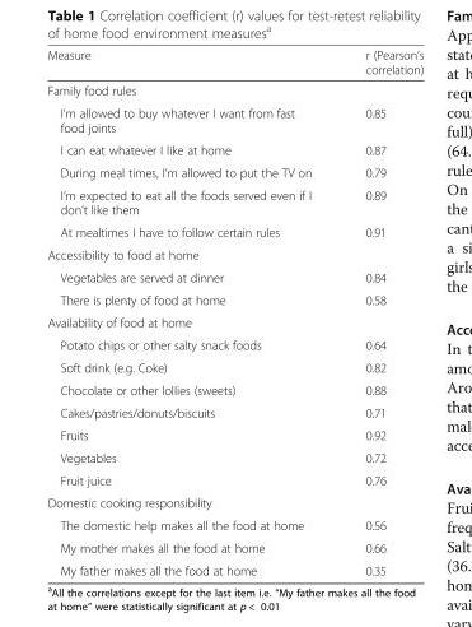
<table><thead><tr><td>Measure</td><td>r (Pearson’s correlation)</td></tr></thead><tbody><tr><td colspan="2">Family food rules</td></tr><tr><td>I’m allowed to buy whatever I want from fast food joints</td><td>0.85</td></tr><tr><td>I can eat whatever I like at home</td><td>0.87</td></tr><tr><td>During meal times, I’m allowed to put the TV on</td><td>0.79</td></tr><tr><td>I’m expected to eat all the foods served even if I don’t like them</td><td>0.89</td></tr><tr><td>At mealtimes I have to follow certain rules</td><td>0.91</td></tr><tr><td colspan="2">Accessibility to food at home</td></tr><tr><td>Vegetables are served at dinner</td><td>0.84</td></tr><tr><td>There is plenty of food at home</td><td>0.58</td></tr><tr><td colspan="2">Availability of food at home</td></tr><tr><td>Potato chips or other salty snack foods</td><td>0.64</td></tr><tr><td>Soft drink (e.g. Coke)</td><td>0.82</td></tr><tr><td>Chocolate or other lollies (sweets)</td><td>0.88</td></tr><tr><td>Cakes/pastries/donuts/biscuits</td><td>0.71</td></tr><tr><td>Fruits</td><td>0.92</td></tr><tr><td>Vegetables</td><td>0.72</td></tr><tr><td>Fruit juice</td><td>0.76</td></tr><tr><td colspan="2">Domestic cooking responsibility</td></tr><tr><td>The domestic help makes all the food at home</td><td>0.56</td></tr><tr><td>My mother makes all the food at home</td><td>0.66</td></tr><tr><td>My father makes all the food at home</td><td>0.35</td></tr></tbody></table>